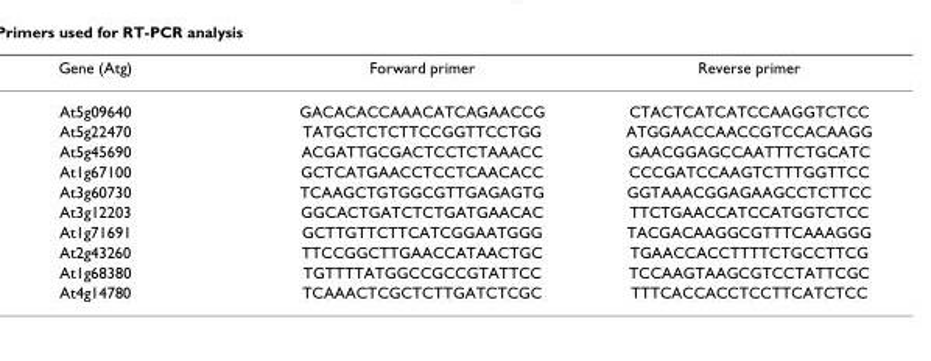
<table><thead><tr><td>Gene (Atg)</td><td>Forward primer</td><td>Reverse primer</td></tr></thead><tbody><tr><td>At5g09640</td><td>GACACACCAAACATCAGAACCG</td><td>CTACTCATCATCCAAGGTCTCC</td></tr><tr><td>At5g22470</td><td>TATGCTCTCTTCCGGTTCCTGG</td><td>ATGGAACCAACCGTCCACAAGG</td></tr><tr><td>At5g45690</td><td>ACGATTGCGACTCCTCTAAACC</td><td>GAACGGAGCCAATTTCTGCATC</td></tr><tr><td>At1g67100</td><td>GCTCATGAACCTCCTCAACACC</td><td>CCCGATCCAAGTCTTTGGTTCC</td></tr><tr><td>At3g60730</td><td>TCAAGCTGTGGCGTTGAGAGTG</td><td>GGTAAACGGAGAAGCCTCTTCC</td></tr><tr><td>At3g12203</td><td>GGCACTGATCTCTGATGAACAC</td><td>TTCTGAACCATCCATGGTCTCC</td></tr><tr><td>At1g71691</td><td>GCTTGTTCTTCATCGGAATGGG</td><td>TACGACAAGGCGTTTCAAAGGG</td></tr><tr><td>At2g43260</td><td>TTCCGGCTTGAACCATAACTGC</td><td>TGAACCACCTTTTCTGCCTTCG</td></tr><tr><td>At1g68380</td><td>TGTTTTATGGCCGCCGTATTCC</td><td>TCCAAGTAAGCGTCCTATTCGC</td></tr><tr><td>At4g14780</td><td>TCAAACTCGCTCTTGATCTCGC</td><td>TTTCACCACCTCCTTCATCTCC</td></tr></tbody></table>